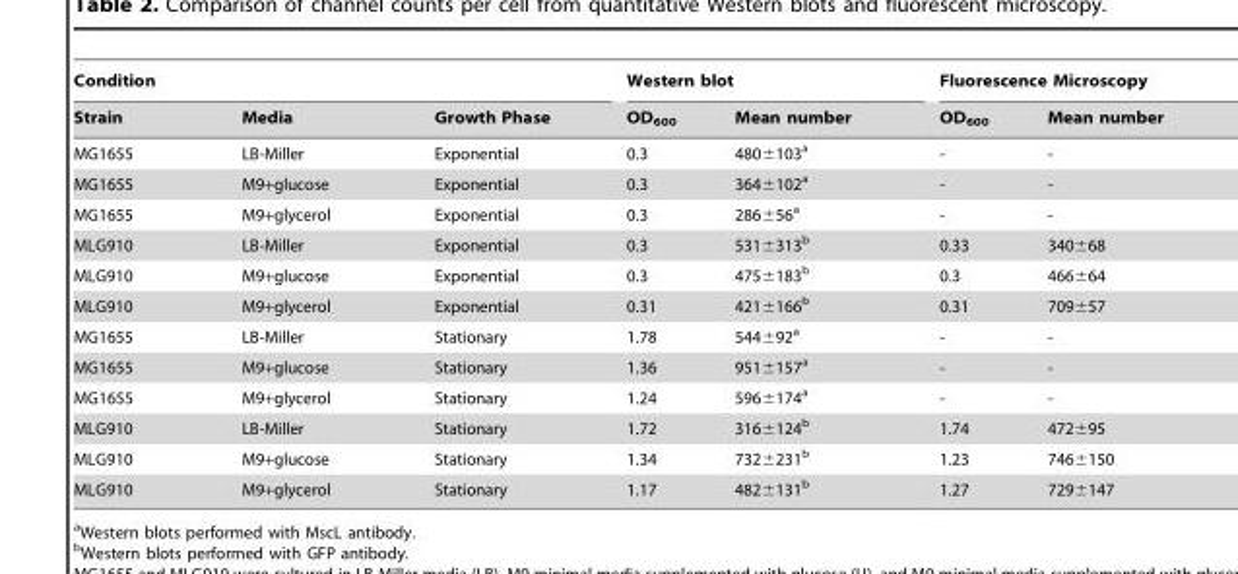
<table><thead><tr><td colspan="3">Condition</td><td colspan="2">Western blot</td><td colspan="2">Fluorescence Microscopy</td></tr><tr><td>Strain</td><td>Media</td><td>Growth Phase</td><td>OD<sub>600</sub></td><td>Mean number</td><td>OD<sub>600</sub></td><td>Mean number</td></tr></thead><tbody><tr><td>MG1655</td><td>LB-Miller</td><td>Exponential</td><td>0.3</td><td>480±103<sup>a</sup></td><td>-</td><td>-</td></tr><tr><td>MG1655</td><td>M9+glucose</td><td>Exponential</td><td>0.3</td><td>364±102<sup>a</sup></td><td>-</td><td>-</td></tr><tr><td>MG1655</td><td>M9+glycerol</td><td>Exponential</td><td>0.3</td><td>286±56<sup>a</sup></td><td>-</td><td>-</td></tr><tr><td>MLG910</td><td>LB-Miller</td><td>Exponential</td><td>0.3</td><td>531±313<sup>b</sup></td><td>0.33</td><td>340±68</td></tr><tr><td>MLG910</td><td>M9+glucose</td><td>Exponential</td><td>0.3</td><td>475±183<sup>b</sup></td><td>0.3</td><td>466±64</td></tr><tr><td>MLG910</td><td>M9+glycerol</td><td>Exponential</td><td>0.31</td><td>421±166<sup>b</sup></td><td>0.31</td><td>709±57</td></tr><tr><td>MG1655</td><td>LB-Miller</td><td>Stationary</td><td>1.78</td><td>544±92<sup>a</sup></td><td>-</td><td>-</td></tr><tr><td>MG1655</td><td>M9+glucose</td><td>Stationary</td><td>1.36</td><td>951±157<sup>a</sup></td><td>-</td><td>-</td></tr><tr><td>MG1655</td><td>M9+glycerol</td><td>Stationary</td><td>1.24</td><td>596±174<sup>a</sup></td><td>-</td><td>-</td></tr><tr><td>MLG910</td><td>LB-Miller</td><td>Stationary</td><td>1.72</td><td>316±124<sup>b</sup></td><td>1.74</td><td>472±95</td></tr><tr><td>MLG910</td><td>M9+glucose</td><td>Stationary</td><td>1.34</td><td>732±231<sup>b</sup></td><td>1.23</td><td>746±150</td></tr><tr><td>MLG910</td><td>M9+glycerol</td><td>Stationary</td><td>1.17</td><td>482±131<sup>b</sup></td><td>1.27</td><td>729±147</td></tr></tbody></table>